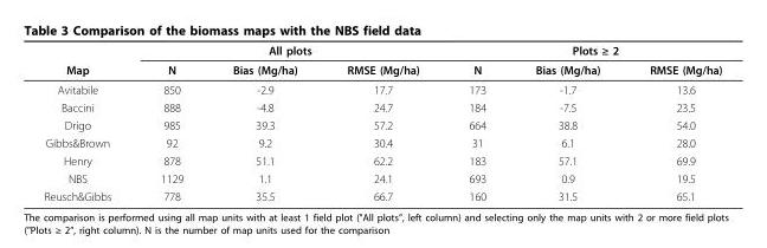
<table><thead><tr><td rowspan="2">Map</td><td colspan="3">All plots</td><td colspan="3">Plots ≥ 2</td></tr><tr><td>N</td><td>Bias (Mg/ha)</td><td>RMSE (Mg/ha)</td><td>N</td><td>Bias (Mg/ha)</td><td>RMSE (Mg/ha)</td></tr></thead><tbody><tr><td>Avitabile</td><td>850</td><td>-2.9</td><td>17.7</td><td>173</td><td>-1.7</td><td>13.6</td></tr><tr><td>Baccini</td><td>888</td><td>-4.8</td><td>24.7</td><td>184</td><td>-7.5</td><td>23.5</td></tr><tr><td>Drigo</td><td>985</td><td>39.3</td><td>57.2</td><td>664</td><td>38.8</td><td>54.0</td></tr><tr><td>Gibbs&amp;Brown</td><td>92</td><td>9.2</td><td>30.4</td><td>31</td><td>6.1</td><td>28.0</td></tr><tr><td>Henry</td><td>878</td><td>51.1</td><td>62.2</td><td>183</td><td>57.1</td><td>69.9</td></tr><tr><td>NBS</td><td>1129</td><td>1.1</td><td>24.1</td><td>693</td><td>0.9</td><td>19.5</td></tr><tr><td>Reusch&amp;Gibbs</td><td>778</td><td>35.5</td><td>66.7</td><td>160</td><td>31.5</td><td>65.1</td></tr></tbody></table>